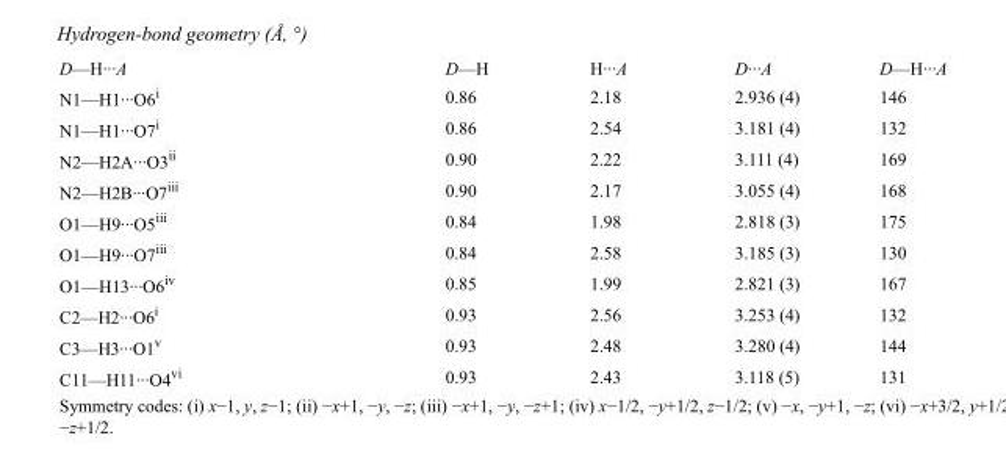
<table><tbody><tr><td>D—H···A</td><td>D—H</td><td>H···A</td><td>D···A</td><td>D—H···A</td></tr><tr><td>N1—H1···O6<sup>i</sup></td><td>0.86</td><td>2.18</td><td>2.936 (4)</td><td>146</td></tr><tr><td>N1—H1···O7<sup>i</sup></td><td>0.86</td><td>2.54</td><td>3.181 (4)</td><td>132</td></tr><tr><td>N2—H2A···O3<sup>ii</sup></td><td>0.90</td><td>2.22</td><td>3.111 (4)</td><td>169</td></tr><tr><td>N2—H2B···O7<sup>iii</sup></td><td>0.90</td><td>2.17</td><td>3.055 (4)</td><td>168</td></tr><tr><td>O1—H9···O5<sup>iii</sup></td><td>0.84</td><td>1.98</td><td>2.818 (3)</td><td>175</td></tr><tr><td>O1—H9···O7<sup>iii</sup></td><td>0.84</td><td>2.58</td><td>3.185 (3)</td><td>130</td></tr><tr><td>O1—H13···O6<sup>iv</sup></td><td>0.85</td><td>1.99</td><td>2.821 (3)</td><td>167</td></tr><tr><td>C2—H2···O6<sup>i</sup></td><td>0.93</td><td>2.56</td><td>3.253 (4)</td><td>132</td></tr><tr><td>C3—H3···O1<sup>v</sup></td><td>0.93</td><td>2.48</td><td>3.280 (4)</td><td>144</td></tr><tr><td>C11—H11···O4<sup>vi</sup></td><td>0.93</td><td>2.43</td><td>3.118 (5)</td><td>131</td></tr></tbody></table>